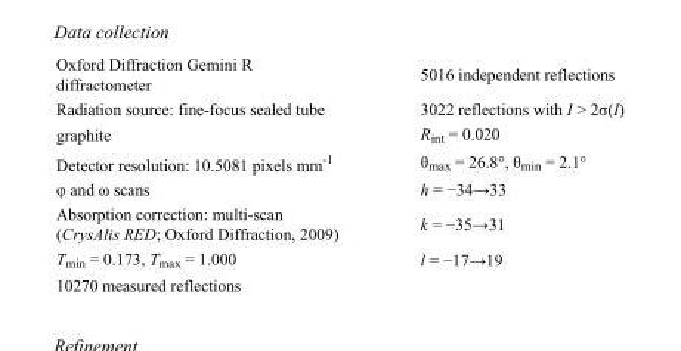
<table><tbody><tr><td>Oxford Diffraction Gemini R diffractometer</td><td>5016 independent reflections</td></tr><tr><td>Radiation source: fine-focus sealed tube</td><td>3022 reflections with I &gt; 2σ(I)</td></tr><tr><td>graphite</td><td>R<sub>int</sub> = 0.020</td></tr><tr><td>Detector resolution: 10.5081 pixels mm<sup>-1</sup></td><td>θ<sub>max</sub> = 26.8°, θ<sub>min</sub> = 2.1°</td></tr><tr><td>φ and ω scans</td><td>h = −34→33</td></tr><tr><td>Absorption correction: multi-scan (CrysAlis RED; Oxford Diffraction, 2009)</td><td>k = −35→31</td></tr><tr><td>T<sub>min</sub> = 0.173, T<sub>max</sub> = 1.000</td><td>l = −17→19</td></tr><tr><td>10270 measured reflections</td><td></td></tr></tbody></table>